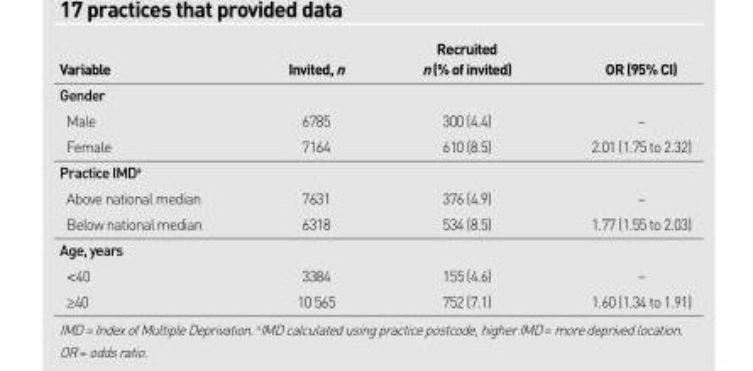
<table><thead><tr><td>Variable</td><td>Invited, n</td><td>n (% of invited)</td><td>OR (95% CI)</td></tr></thead><tbody><tr><td colspan="4">Gender</td></tr><tr><td>Male</td><td>6785</td><td>300 (4.4)</td><td>–</td></tr><tr><td>Female</td><td>7164</td><td>610 (8.5)</td><td>2.01 (1.75 to 2.32)</td></tr><tr><td colspan="4">Practice IMD<sup>a</sup></td></tr><tr><td>Above national median</td><td>7631</td><td>376 (4.9)</td><td>–</td></tr><tr><td>Below national median</td><td>6318</td><td>534 (8.5)</td><td>1.77 (1.55 to 2.03)</td></tr><tr><td colspan="4">Age, years</td></tr><tr><td>&lt;40</td><td>3384</td><td>155 (4.6)</td><td>–</td></tr><tr><td>≥40</td><td>10 565</td><td>752 (7.1)</td><td>1.60 (1.34 to 1.91)</td></tr></tbody></table>